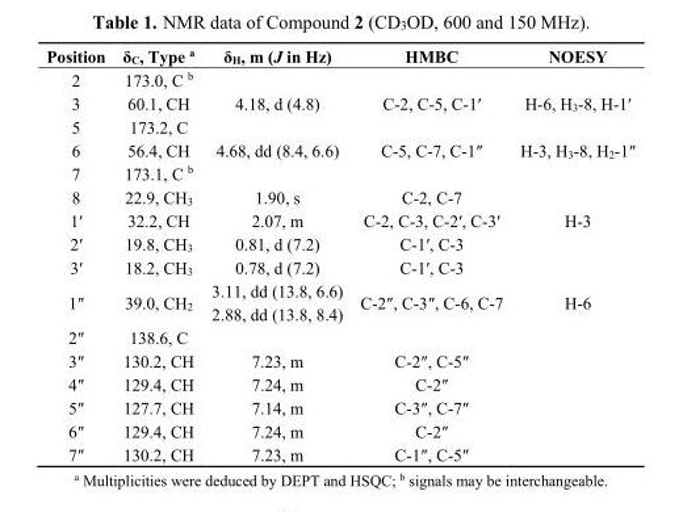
<table><thead><tr><td>Position</td><td>δ<sub>C</sub>, Type <sup>a</sup></td><td>δ<sub>H</sub>, m (J in Hz)</td><td>HMBC</td><td>NOESY</td></tr></thead><tbody><tr><td>2</td><td>173.0, C <sup>b</sup></td><td></td><td></td><td></td></tr><tr><td>3</td><td>60.1, CH</td><td>4.18, d (4.8)</td><td>C-2, C-5, C-1′</td><td>H-6, H<sub>3</sub>-8, H-1′</td></tr><tr><td>5</td><td>173.2, C</td><td></td><td></td><td></td></tr><tr><td>6</td><td>56.4, CH</td><td>4.68, dd (8.4, 6.6)</td><td>C-5, C-7, C-1″</td><td>H-3, H<sub>3</sub>-8, H<sub>2</sub>-1″</td></tr><tr><td>7</td><td>173.1, C <sup>b</sup></td><td></td><td></td><td></td></tr><tr><td>8</td><td>22.9, CH<sub>3</sub></td><td>1.90, s</td><td>C-2, C-7</td><td></td></tr><tr><td>1′</td><td>32.2, CH</td><td>2.07, m</td><td>C-2, C-3, C-2′, C-3′</td><td>H-3</td></tr><tr><td>2′</td><td>19.8, CH<sub>3</sub></td><td>0.81, d (7.2)</td><td>C-1′, C-3</td><td></td></tr><tr><td>3′</td><td>18.2, CH<sub>3</sub></td><td>0.78, d (7.2)</td><td>C-1′, C-3</td><td></td></tr><tr><td>1″</td><td>39.0, CH<sub>2</sub></td><td>3.11, dd (13.8, 6.6) 2.88, dd (13.8, 8.4)</td><td>C-2″, C-3″, C-6, C-7</td><td>H-6</td></tr><tr><td>2″</td><td>138.6, C</td><td></td><td></td><td></td></tr><tr><td>3″</td><td>130.2, CH</td><td>7.23, m</td><td>C-2″, C-5″</td><td></td></tr><tr><td>4″</td><td>129.4, CH</td><td>7.24, m</td><td>C-2″</td><td></td></tr><tr><td>5″</td><td>127.7, CH</td><td>7.14, m</td><td>C-3″, C-7″</td><td></td></tr><tr><td>6″</td><td>129.4, CH</td><td>7.24, m</td><td>C-2″</td><td></td></tr><tr><td>7″</td><td>130.2, CH</td><td>7.23, m</td><td>C-1″, C-5″</td><td></td></tr></tbody></table>